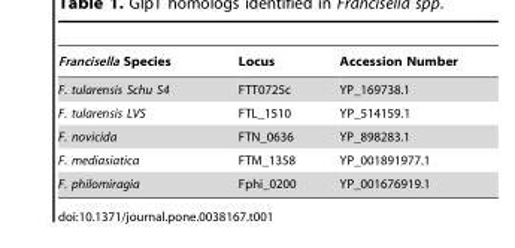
<table><thead><tr><td>Francisella Species</td><td>Locus</td><td>Accession Number</td></tr></thead><tbody><tr><td>F. tularensis Schu S4</td><td>FTT0725c</td><td>YP_169738.1</td></tr><tr><td>F. tularensis LVS</td><td>FTL_1510</td><td>YP_514159.1</td></tr><tr><td>F. novicida</td><td>FTN_0636</td><td>YP_898283.1</td></tr><tr><td>F. mediasiatica</td><td>FTM_1358</td><td>YP_001891977.1</td></tr><tr><td>F. philomiragia</td><td>Fphi_0200</td><td>YP_001676919.1</td></tr></tbody></table>